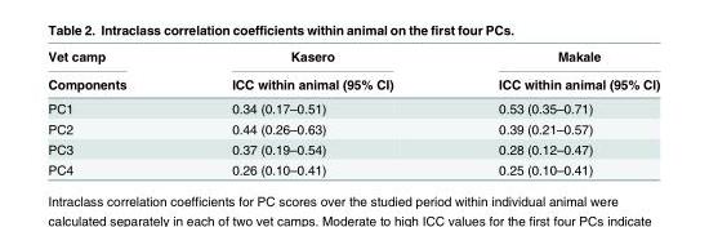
<table><thead><tr><td rowspan="2">Vet camp Components</td><td rowspan="2">Kasero ICC within animal (95% CI)</td><td rowspan="2">Makale ICC within animal (95% CI)</td></tr><tr></tr></thead><tbody><tr><td>PC1</td><td>0.34 (0.17–0.51)</td><td>0.53 (0.35–0.71)</td></tr><tr><td>PC2</td><td>0.44 (0.26–0.63)</td><td>0.39 (0.21–0.57)</td></tr><tr><td>PC3</td><td>0.37 (0.19–0.54)</td><td>0.28 (0.12–0.47)</td></tr><tr><td>PC4</td><td>0.26 (0.10–0.41)</td><td>0.25 (0.10–0.41)</td></tr></tbody></table>